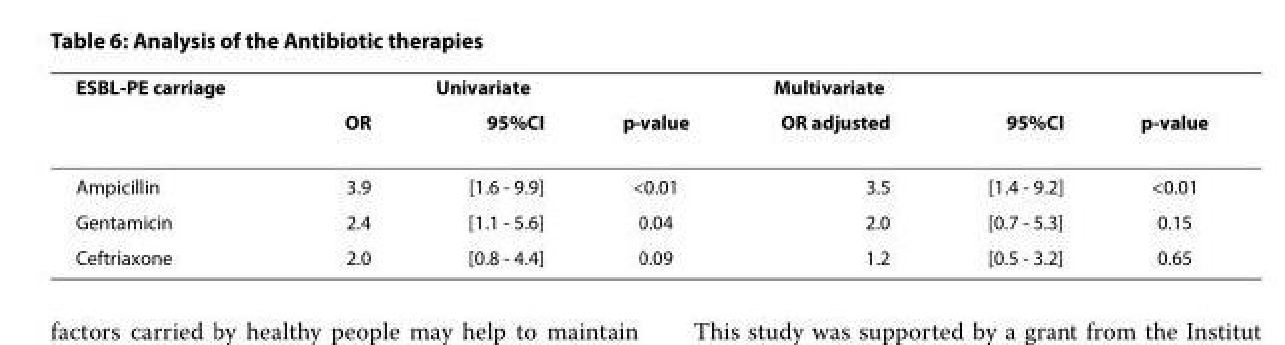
<table><thead><tr><td colspan="2">ESBL-PE carriage</td><td rowspan="2">Univariate 95%CI</td><td rowspan="2">p-value</td><td rowspan="2">Multivariate OR adjusted</td><td rowspan="2">95%CI</td><td rowspan="2">p-value</td></tr><tr><td></td><td>OR</td></tr></thead><tbody><tr><td>Ampicillin</td><td>3.9</td><td>[1.6 - 9.9]</td><td>&lt;0.01</td><td>3.5</td><td>[1.4 - 9.2]</td><td>&lt;0.01</td></tr><tr><td>Gentamicin</td><td>2.4</td><td>[1.1 - 5.6]</td><td>0.04</td><td>2.0</td><td>[0.7 - 5.3]</td><td>0.15</td></tr><tr><td>Ceftriaxone</td><td>2.0</td><td>[0.8 - 4.4]</td><td>0.09</td><td>1.2</td><td>[0.5 - 3.2]</td><td>0.65</td></tr></tbody></table>